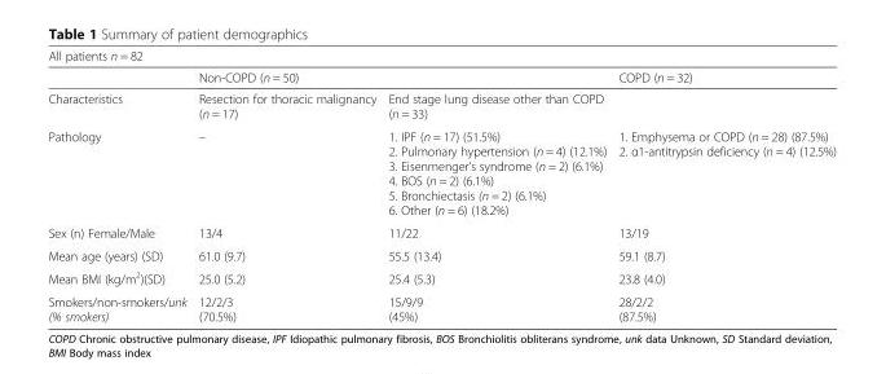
<table><thead><tr><td colspan="4">All patients n = 82</td></tr><tr><td rowspan="2">Characteristics</td><td colspan="2">Non-COPD (n = 50)</td><td rowspan="2">COPD (n = 32)</td></tr><tr><td>Resection for thoracic malignancy (n = 17)</td><td>End stage lung disease other than COPD (n = 33)</td></tr></thead><tbody><tr><td>Pathology</td><td>–</td><td>1. IPF (n = 17) (51.5%) 2. Pulmonary hypertension (n = 4) (12.1%) 3. Eisenmenger’s syndrome (n = 2) (6.1%) 4. BOS (n = 2) (6.1%) 5. Bronchiectasis (n = 2) (6.1%) 6. Other (n = 6) (18.2%)</td><td>1. Emphysema or COPD (n = 28) (87.5%) 2. α1-antitrypsin deficiency (n = 4) (12.5%)</td></tr><tr><td>Sex (n) Female/Male</td><td>13/4</td><td>11/22</td><td>13/19</td></tr><tr><td>Mean age (years) (SD)</td><td>61.0 (9.7)</td><td>55.5 (13.4)</td><td>59.1 (8.7)</td></tr><tr><td>Mean BMI (kg/m<sup>2</sup>)(SD)</td><td>25.0 (5.2)</td><td>25.4 (5.3)</td><td>23.8 (4.0)</td></tr><tr><td>Smokers/non-smokers/unk (% smokers)</td><td>12/2/3 (70.5%)</td><td>15/9/9 (45%)</td><td>28/2/2 (87.5%)</td></tr></tbody></table>